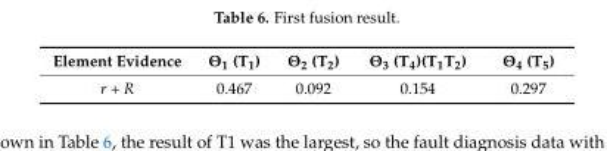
<table><thead><tr><td>Element Evidence</td><td>Θ<sub>1</sub> (T<sub>1</sub>)</td><td>Θ<sub>2</sub> (T<sub>2</sub>)</td><td>Θ<sub>3</sub> (T<sub>4</sub>)(T<sub>1</sub>T<sub>2</sub>)</td><td>Θ<sub>4</sub> (T<sub>5</sub>)</td></tr></thead><tbody><tr><td>r + R</td><td>0.467</td><td>0.092</td><td>0.154</td><td>0.297</td></tr></tbody></table>